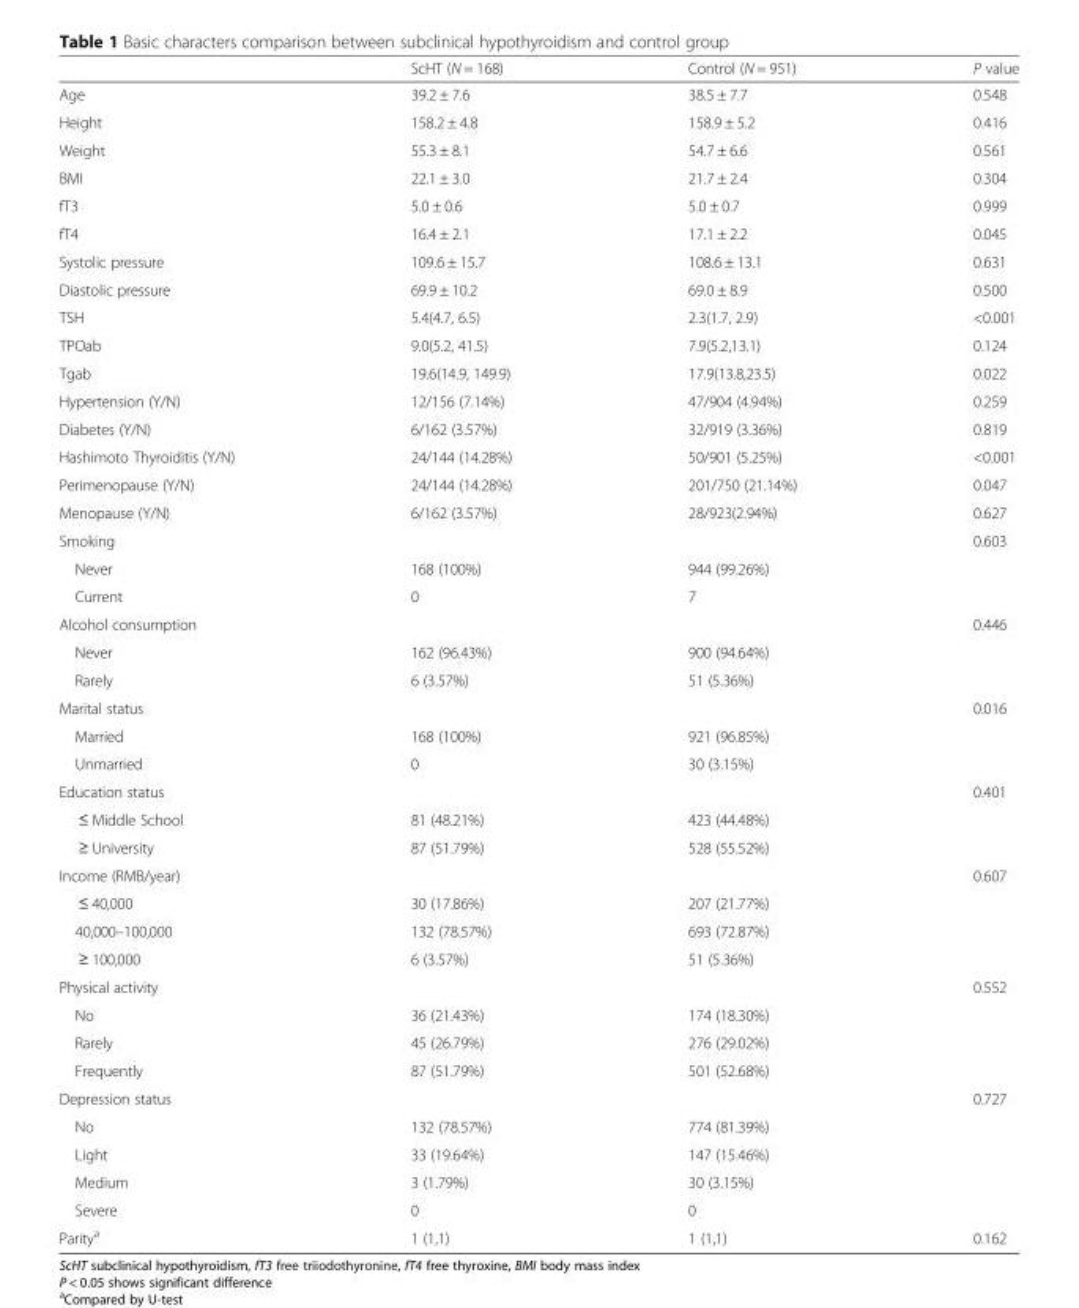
<table><thead><tr><td></td><td>ScHT (N = 168)</td><td>Control (N = 951)</td><td>P value</td></tr></thead><tbody><tr><td>Age</td><td>39.2 ± 7.6</td><td>38.5 ± 7.7</td><td>0.548</td></tr><tr><td>Height</td><td>158.2 ± 4.8</td><td>158.9 ± 5.2</td><td>0.416</td></tr><tr><td>Weight</td><td>55.3 ± 8.1</td><td>54.7 ± 6.6</td><td>0.561</td></tr><tr><td>BMI</td><td>22.1 ± 3.0</td><td>21.7 ± 2.4</td><td>0.304</td></tr><tr><td>fT3</td><td>5.0 ± 0.6</td><td>5.0 ± 0.7</td><td>0.999</td></tr><tr><td>fT4</td><td>16.4 ± 2.1</td><td>17.1 ± 2.2</td><td>0.045</td></tr><tr><td>Systolic pressure</td><td>109.6 ± 15.7</td><td>108.6 ± 13.1</td><td>0.631</td></tr><tr><td>Diastolic pressure</td><td>69.9 ± 10.2</td><td>69.0 ± 8.9</td><td>0.500</td></tr><tr><td>TSH</td><td>5.4(4.7, 6.5)</td><td>2.3(1.7, 2.9)</td><td>&lt;0.001</td></tr><tr><td>TPOab</td><td>9.0(5.2, 41.5)</td><td>7.9(5.2,13.1)</td><td>0.124</td></tr><tr><td>Tgab</td><td>19.6(14.9, 149.9)</td><td>17.9(13.8,23.5)</td><td>0.022</td></tr><tr><td>Hypertension (Y/N)</td><td>12/156 (7.14%)</td><td>47/904 (4.94%)</td><td>0.259</td></tr><tr><td>Diabetes (Y/N)</td><td>6/162 (3.57%)</td><td>32/919 (3.36%)</td><td>0.819</td></tr><tr><td>Hashimoto Thyroiditis (Y/N)</td><td>24/144 (14.28%)</td><td>50/901 (5.25%)</td><td>&lt;0.001</td></tr><tr><td>Perimenopause (Y/N)</td><td>24/144 (14.28%)</td><td>201/750 (21.14%)</td><td>0.047</td></tr><tr><td>Menopause (Y/N)</td><td>6/162 (3.57%)</td><td>28/923(2.94%)</td><td>0.627</td></tr><tr><td colspan="3">Smoking</td><td rowspan="3">0.603</td></tr><tr><td>Never</td><td>168 (100%)</td><td>944 (99.26%)</td></tr><tr><td>Current</td><td>0</td><td>7</td></tr><tr><td colspan="3">Alcohol consumption</td><td rowspan="3">0.446</td></tr><tr><td>Never</td><td>162 (96.43%)</td><td>900 (94.64%)</td></tr><tr><td>Rarely</td><td>6 (3.57%)</td><td>51 (5.36%)</td></tr><tr><td colspan="3">Marital status</td><td rowspan="3">0.016</td></tr><tr><td>Married</td><td>168 (100%)</td><td>921 (96.85%)</td></tr><tr><td>Unmarried</td><td>0</td><td>30 (3.15%)</td></tr><tr><td colspan="3">Education status</td><td rowspan="3">0.401</td></tr><tr><td>≤ Middle School</td><td>81 (48.21%)</td><td>423 (44.48%)</td></tr><tr><td>≥ University</td><td>87 (51.79%)</td><td>528 (55.52%)</td></tr><tr><td colspan="3">Income (RMB/year)</td><td rowspan="4">0.607</td></tr><tr><td>≤ 40,000</td><td>30 (17.86%)</td><td>207 (21.77%)</td></tr><tr><td>40,000–100,000</td><td>132 (78.57%)</td><td>693 (72.87%)</td></tr><tr><td>≥ 100,000</td><td>6 (3.57%)</td><td>51 (5.36%)</td></tr><tr><td colspan="3">Physical activity</td><td rowspan="4">0.552</td></tr><tr><td>No</td><td>36 (21.43%)</td><td>174 (18.30%)</td></tr><tr><td>Rarely</td><td>45 (26.79%)</td><td>276 (29.02%)</td></tr><tr><td>Frequently</td><td>87 (51.79%)</td><td>501 (52.68%)</td></tr><tr><td colspan="3">Depression status</td><td rowspan="5">0.727</td></tr><tr><td>No</td><td>132 (78.57%)</td><td>774 (81.39%)</td></tr><tr><td>Light</td><td>33 (19.64%)</td><td>147 (15.46%)</td></tr><tr><td>Medium</td><td>3 (1.79%)</td><td>30 (3.15%)</td></tr><tr><td>Severe</td><td>0</td><td>0</td></tr><tr><td>Parity<sup>a</sup></td><td>1 (1,1)</td><td>1 (1,1)</td><td>0.162</td></tr></tbody></table>